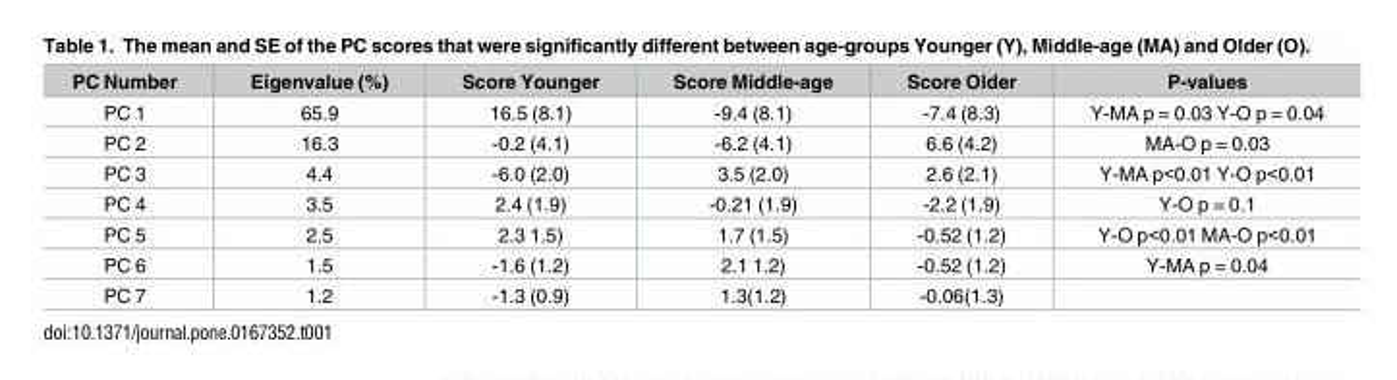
<table><thead><tr><td>PC Number</td><td>Eigenvalue (%)</td><td>Score Younger</td><td>Score Middle-age</td><td>Score Older</td><td>P-values</td></tr></thead><tbody><tr><td>PC 1</td><td>65.9</td><td>16.5 (8.1)</td><td>-9.4 (8.1)</td><td>-7.4 (8.3)</td><td>Y-MA p = 0.03 Y-O p = 0.04</td></tr><tr><td>PC 2</td><td>16.3</td><td>-0.2 (4.1)</td><td>-6.2 (4.1)</td><td>6.6 (4.2)</td><td>MA-O p = 0.03</td></tr><tr><td>PC 3</td><td>4.4</td><td>-6.0 (2.0)</td><td>3.5 (2.0)</td><td>2.6 (2.1)</td><td>Y-MA p&lt;0.01 Y-O p&lt;0.01</td></tr><tr><td>PC 4</td><td>3.5</td><td>2.4 (1.9)</td><td>-0.21 (1.9)</td><td>-2.2 (1.9)</td><td>Y-O p = 0.1</td></tr><tr><td>PC 5</td><td>2.5</td><td>2.3 1.5)</td><td>1.7 (1.5)</td><td>-0.52 (1.2)</td><td>Y-O p&lt;0.01 MA-O p&lt;0.01</td></tr><tr><td>PC 6</td><td>1.5</td><td>-1.6 (1.2)</td><td>2.1 1.2)</td><td>-0.52 (1.2)</td><td>Y-MA p = 0.04</td></tr><tr><td>PC 7</td><td>1.2</td><td>-1.3 (0.9)</td><td>1.3(1.2)</td><td>-0.06(1.3)</td><td></td></tr></tbody></table>